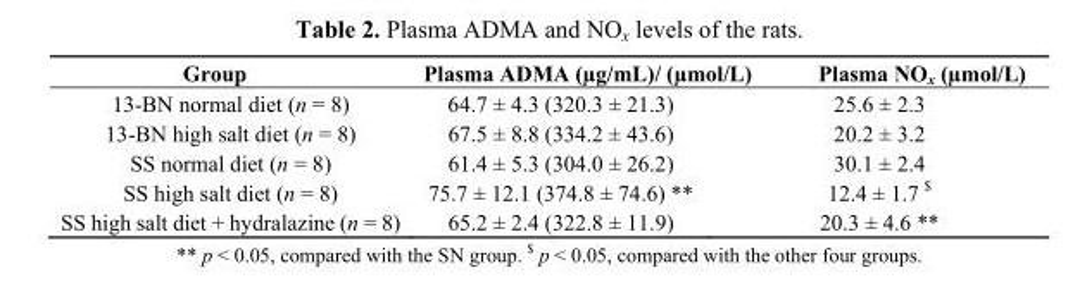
<table><thead><tr><td>Group</td><td>Plasma ADMA (µg/mL)/ (µmol/L)</td><td>Plasma NO<sub>x</sub> (µmol/L)</td></tr></thead><tbody><tr><td>13-BN normal diet (n = 8)</td><td>64.7 ± 4.3 (320.3 ± 21.3)</td><td>25.6 ± 2.3</td></tr><tr><td>13-BN high salt diet (n = 8)</td><td>67.5 ± 8.8 (334.2 ± 43.6)</td><td>20.2 ± 3.2</td></tr><tr><td>SS normal diet (n = 8)</td><td>61.4 ± 5.3 (304.0 ± 26.2)</td><td>30.1 ± 2.4</td></tr><tr><td>SS high salt diet (n = 8)</td><td>75.7 ± 12.1 (374.8 ± 74.6) **</td><td>12.4 ± 1.7 $</td></tr><tr><td>SS high salt diet + hydralazine (n = 8)</td><td>65.2 ± 2.4 (322.8 ± 11.9)</td><td>20.3 ± 4.6 **</td></tr></tbody></table>